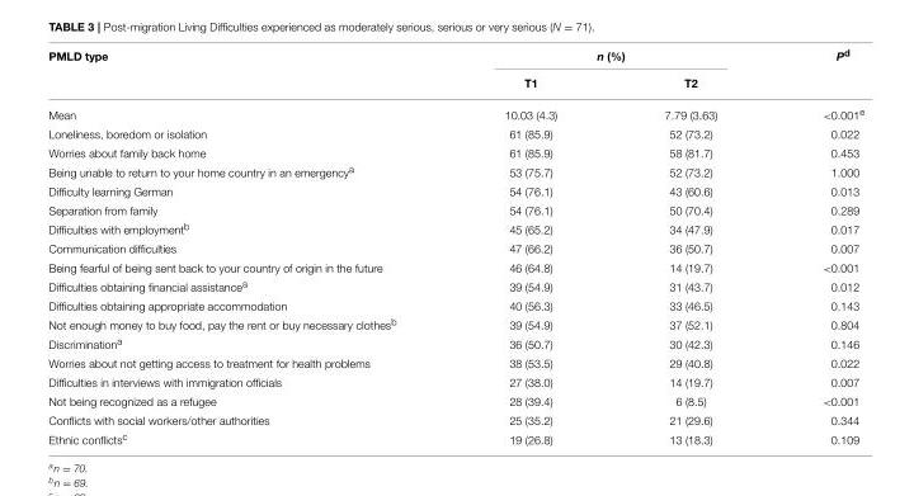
<table><thead><tr><td rowspan="2">PMLD type</td><td colspan="2">n (%)</td><td rowspan="2">P<sup>d</sup></td></tr><tr><td>T1</td><td>T2</td></tr></thead><tbody><tr><td>Mean</td><td>10.03 (4.3)</td><td>7.79 (3.63)</td><td>&lt;0.001<sup>e</sup></td></tr><tr><td>Loneliness, boredom or isolation</td><td>61 (85.9)</td><td>52 (73.2)</td><td>0.022</td></tr><tr><td>Worries about family back home</td><td>61 (85.9)</td><td>58 (81.7)</td><td>0.453</td></tr><tr><td>Being unable to return to your home country in an emergency<sup>a</sup></td><td>53 (75.7)</td><td>52 (73.2)</td><td>1.000</td></tr><tr><td>Difficulty learning German</td><td>54 (76.1)</td><td>43 (60.6)</td><td>0.013</td></tr><tr><td>Separation from family</td><td>54 (76.1)</td><td>50 (70.4)</td><td>0.289</td></tr><tr><td>Difficulties with employment<sup>b</sup></td><td>45 (65.2)</td><td>34 (47.9)</td><td>0.017</td></tr><tr><td>Communication difficulties</td><td>47 (66.2)</td><td>36 (50.7)</td><td>0.007</td></tr><tr><td>Being fearful of being sent back to your country of origin in the future</td><td>46 (64.8)</td><td>14 (19.7)</td><td>&lt;0.001</td></tr><tr><td>Difficulties obtaining financial assistance<sup>a</sup></td><td>39 (54.9)</td><td>31 (43.7)</td><td>0.012</td></tr><tr><td>Difficulties obtaining appropriate accommodation</td><td>40 (56.3)</td><td>33 (46.5)</td><td>0.143</td></tr><tr><td>Not enough money to buy food, pay the rent or buy necessary clothes<sup>b</sup></td><td>39 (54.9)</td><td>37 (52.1)</td><td>0.804</td></tr><tr><td>Discrimination<sup>a</sup></td><td>36 (50.7)</td><td>30 (42.3)</td><td>0.146</td></tr><tr><td>Worries about not getting access to treatment for health problems</td><td>38 (53.5)</td><td>29 (40.8)</td><td>0.022</td></tr><tr><td>Difficulties in interviews with immigration officials</td><td>27 (38.0)</td><td>14 (19.7)</td><td>0.007</td></tr><tr><td>Not being recognized as a refugee</td><td>28 (39.4)</td><td>6 (8.5)</td><td>&lt;0.001</td></tr><tr><td>Conflicts with social workers/other authorities</td><td>25 (35.2)</td><td>21 (29.6)</td><td>0.344</td></tr><tr><td>Ethnic conflicts<sup>c</sup></td><td>19 (26.8)</td><td>13 (18.3)</td><td>0.109</td></tr></tbody></table>